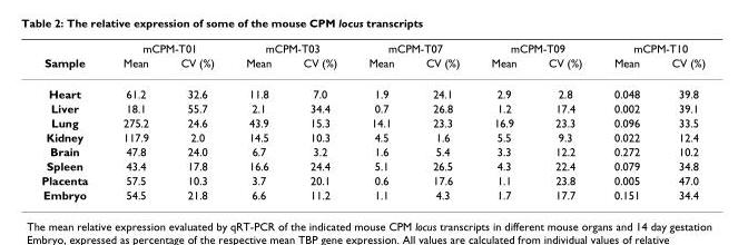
<table><thead><tr><td rowspan="2">Sample</td><td colspan="2">mCPM-T01</td><td colspan="2">mCPM-T03</td><td colspan="2">mCPM-T07</td><td colspan="2">mCPM-T09</td><td colspan="2">mCPM-T10</td></tr><tr><td>Mean</td><td>CV (%)</td><td>Mean</td><td>CV (%)</td><td>Mean</td><td>CV (%)</td><td>Mean</td><td>CV (%)</td><td>Mean</td><td>CV (%)</td></tr></thead><tbody><tr><td>Heart</td><td>61.2</td><td>32.6</td><td>11.8</td><td>7.0</td><td>1.9</td><td>24.1</td><td>2.9</td><td>2.8</td><td>0.048</td><td>39.8</td></tr><tr><td>Liver</td><td>18.1</td><td>55.7</td><td>2.1</td><td>34.4</td><td>0.7</td><td>26.8</td><td>1.2</td><td>17.4</td><td>0.002</td><td>39.1</td></tr><tr><td>Lung</td><td>275.2</td><td>24.6</td><td>43.9</td><td>15.3</td><td>14.1</td><td>23.3</td><td>16.9</td><td>23.3</td><td>0.096</td><td>33.5</td></tr><tr><td>Kidney</td><td>117.9</td><td>2.0</td><td>14.5</td><td>10.3</td><td>4.5</td><td>1.6</td><td>5.5</td><td>9.3</td><td>0.022</td><td>12.4</td></tr><tr><td>Brain</td><td>47.8</td><td>24.0</td><td>6.7</td><td>3.2</td><td>1.6</td><td>5.4</td><td>3.3</td><td>12.2</td><td>0.272</td><td>10.2</td></tr><tr><td>Spleen</td><td>43.4</td><td>17.8</td><td>16.6</td><td>24.4</td><td>5.1</td><td>26.5</td><td>4.3</td><td>22.4</td><td>0.079</td><td>34.8</td></tr><tr><td>Placenta</td><td>57.5</td><td>10.3</td><td>3.7</td><td>20.1</td><td>0.6</td><td>17.6</td><td>1.1</td><td>23.8</td><td>0.005</td><td>47.0</td></tr><tr><td>Embryo</td><td>54.5</td><td>21.8</td><td>6.6</td><td>11.2</td><td>1.1</td><td>4.3</td><td>1.7</td><td>17.7</td><td>0.151</td><td>34.4</td></tr></tbody></table>